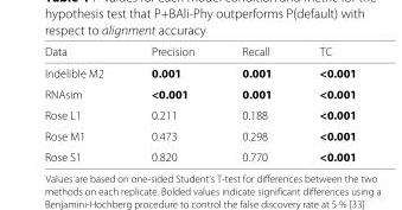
<table><thead><tr><td>Data</td><td>Precision</td><td>Recall</td><td>TC</td></tr></thead><tbody><tr><td>Indelible M2</td><td>0.001</td><td>0.001</td><td>&lt;0.001</td></tr><tr><td>RNAsim</td><td>&lt;0.001</td><td>0.001</td><td>&lt;0.001</td></tr><tr><td>Rose L1</td><td>0.211</td><td>0.188</td><td>&lt;0.001</td></tr><tr><td>Rose M1</td><td>0.473</td><td>0.298</td><td>&lt;0.001</td></tr><tr><td>Rose S1</td><td>0.820</td><td>0.770</td><td>&lt;0.001</td></tr></tbody></table>